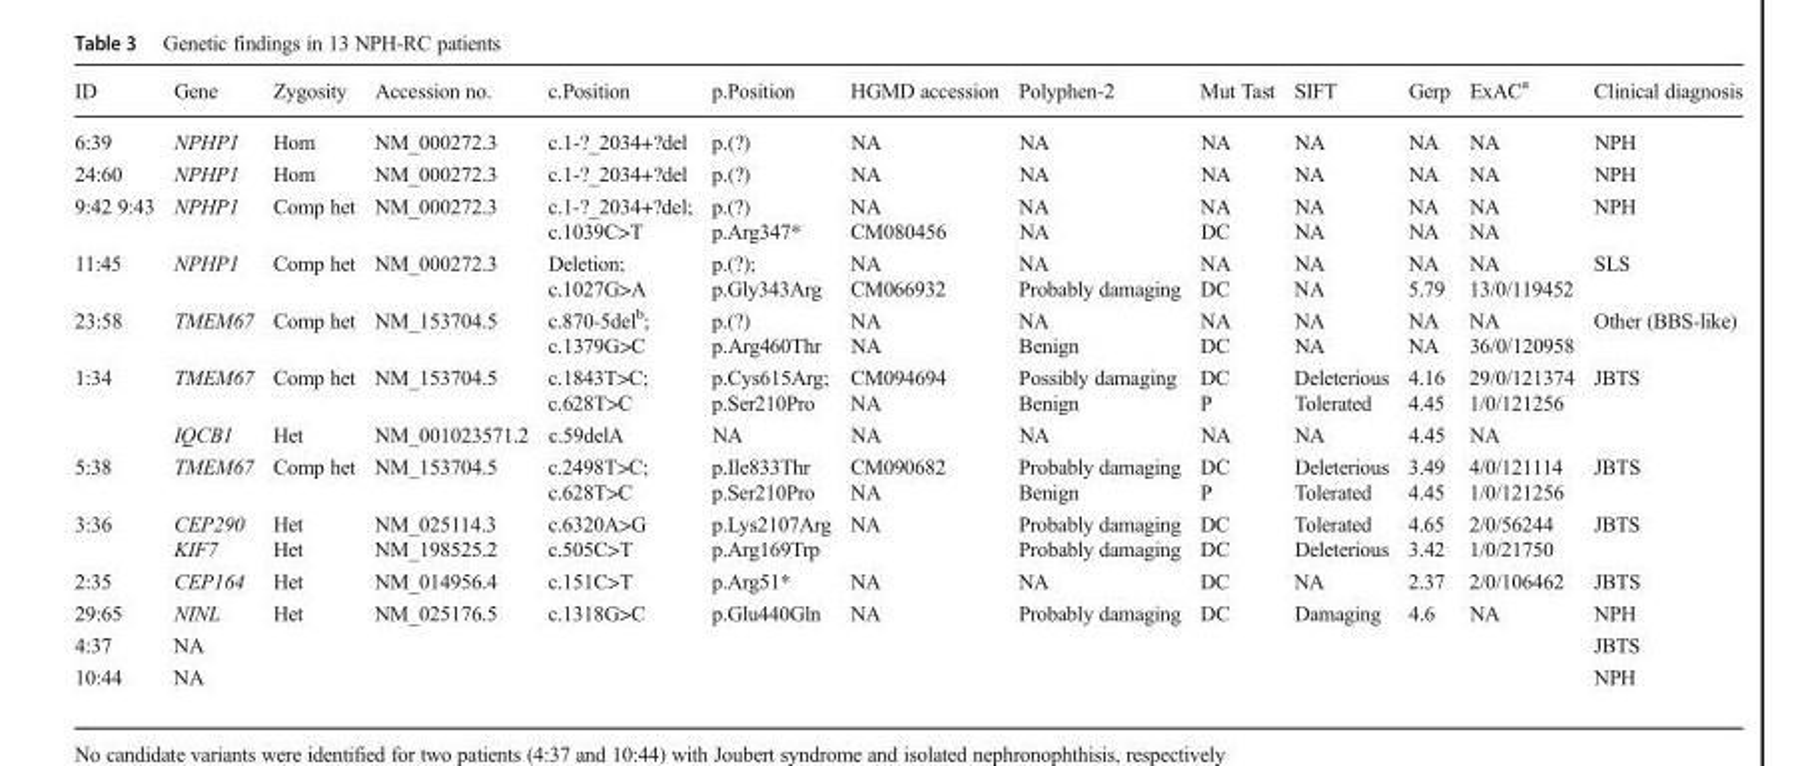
<table><thead><tr><td>ID</td><td>Gene</td><td>Zygosity</td><td>Accession no.</td><td>c.Position</td><td>p.Position</td><td>HGMD accession</td><td>Polyphen-2</td><td>Mut Tast</td><td>SIFT</td><td>Gerp</td><td>ExAC<sup>a</sup></td><td>Clinical diagnosis</td></tr></thead><tbody><tr><td>6:39</td><td>NPHP1</td><td>Hom</td><td>NM_000272.3</td><td>c.1-?_2034+?del</td><td>p.(?)</td><td>NA</td><td>NA</td><td>NA</td><td>NA</td><td>NA</td><td>NA</td><td>NPH</td></tr><tr><td>24:60</td><td>NPHP1</td><td>Hom</td><td>NM_000272.3</td><td>c.1-?_2034+?del</td><td>p.(?)</td><td>NA</td><td>NA</td><td>NA</td><td>NA</td><td>NA</td><td>NA</td><td>NPH</td></tr><tr><td rowspan="2">9:42 9:43</td><td rowspan="2">NPHP1</td><td rowspan="2">Comp het</td><td rowspan="2">NM_000272.3</td><td>c.1-?_2034+?del;</td><td>p.(?)</td><td>NA</td><td>NA</td><td>NA</td><td>NA</td><td>NA</td><td>NA</td><td rowspan="2">NPH</td></tr><tr><td>c.1039C&gt;T</td><td>p.Arg347*</td><td>CM080456</td><td>NA</td><td>DC</td><td>NA</td><td>NA</td><td>NA</td></tr><tr><td rowspan="2">11:45</td><td rowspan="2">NPHP1</td><td rowspan="2">Comp het</td><td rowspan="2">NM_000272.3</td><td>Deletion;</td><td>p.(?);</td><td>NA</td><td>NA</td><td>NA</td><td>NA</td><td>NA</td><td>NA</td><td rowspan="2">SLS</td></tr><tr><td>c.1027G&gt;A</td><td>p.Gly343Arg</td><td>CM066932</td><td>Probably damaging</td><td>DC</td><td>NA</td><td>5.79</td><td>13/0/119452</td></tr><tr><td rowspan="2">23:58</td><td rowspan="2">TMEM67</td><td rowspan="2">Comp het</td><td rowspan="2">NM_153704.5</td><td>c.870-5del<sup>b</sup>;</td><td>p.(?)</td><td>NA</td><td>NA</td><td>NA</td><td>NA</td><td>NA</td><td>NA</td><td rowspan="2">Other (BBS-like)</td></tr><tr><td>c.1379G&gt;C</td><td>p.Arg460Thr</td><td>NA</td><td>Benign</td><td>DC</td><td>NA</td><td>NA</td><td>36/0/120958</td></tr><tr><td rowspan="3">1:34</td><td>TMEM67</td><td>Comp het</td><td>NM_153704.5</td><td>c.1843T&gt;C;</td><td>p.Cys615Arg;</td><td>CM094694</td><td>Possibly damaging</td><td>DC</td><td>Deleterious</td><td>4.16</td><td>29/0/121374</td><td rowspan="3">JBTS</td></tr><tr><td></td><td></td><td></td><td>c.628T&gt;C</td><td>p.Ser210Pro</td><td>NA</td><td>Benign</td><td>P</td><td>Tolerated</td><td>4.45</td><td>1/0/121256</td></tr><tr><td>IQCB1</td><td>Het</td><td>NM_001023571.2</td><td>c.59delA</td><td>NA</td><td>NA</td><td>NA</td><td>NA</td><td>NA</td><td>4.45</td><td>NA</td></tr><tr><td rowspan="2">5:38</td><td rowspan="2">TMEM67</td><td rowspan="2">Comp het</td><td rowspan="2">NM_153704.5</td><td>c.2498T&gt;C;</td><td>p.Ile833Thr</td><td>CM090682</td><td>Probably damaging</td><td>DC</td><td>Deleterious</td><td>3.49</td><td>4/0/121114</td><td rowspan="2">JBTS</td></tr><tr><td>c.628T&gt;C</td><td>p.Ser210Pro</td><td>NA</td><td>Benign</td><td>P</td><td>Tolerated</td><td>4.45</td><td>1/0/121256</td></tr><tr><td rowspan="2">3:36</td><td>CEP290</td><td>Het</td><td>NM_025114.3</td><td>c.6320A&gt;G</td><td>p.Lys2107Arg</td><td rowspan="2">NA</td><td>Probably damaging</td><td>DC</td><td>Tolerated</td><td>4.65</td><td>2/0/56244</td><td rowspan="2">JBTS</td></tr><tr><td>KIF7</td><td>Het</td><td>NM_198525.2</td><td>c.505C&gt;T</td><td>p.Arg169Trp</td><td>Probably damaging</td><td>DC</td><td>Deleterious</td><td>3.42</td><td>1/0/21750</td></tr><tr><td>2:35</td><td>CEP164</td><td>Het</td><td>NM_014956.4</td><td>c.151C&gt;T</td><td>p.Arg51*</td><td>NA</td><td>NA</td><td>DC</td><td>NA</td><td>2.37</td><td>2/0/106462</td><td>JBTS</td></tr><tr><td>29:65</td><td>NINL</td><td>Het</td><td>NM_025176.5</td><td>c.1318G&gt;C</td><td>p.Glu440Gln</td><td>NA</td><td>Probably damaging</td><td>DC</td><td>Damaging</td><td>4.6</td><td>NA</td><td>NPH</td></tr><tr><td>4:37</td><td>NA</td><td></td><td></td><td></td><td></td><td></td><td></td><td></td><td></td><td></td><td></td><td>JBTS</td></tr><tr><td>10:44</td><td>NA</td><td></td><td></td><td></td><td></td><td></td><td></td><td></td><td></td><td></td><td></td><td>NPH</td></tr></tbody></table>